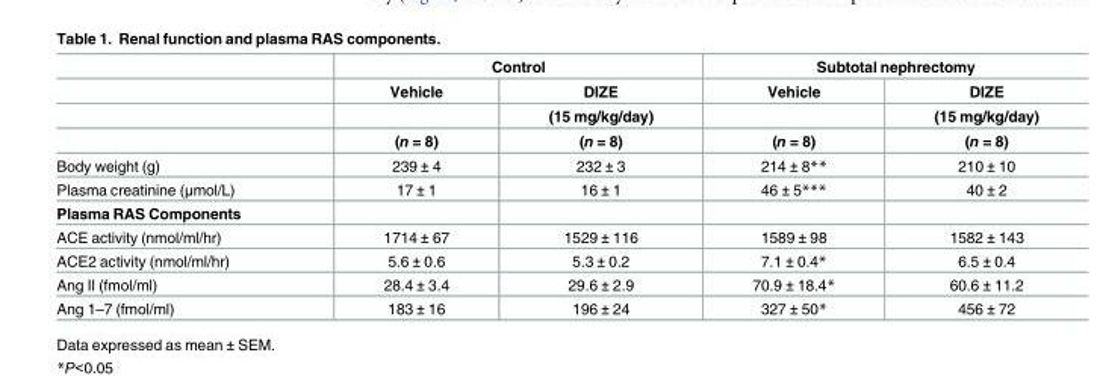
<table><thead><tr><td rowspan="4"></td><td colspan="2">Control</td><td colspan="2">Subtotal nephrectomy</td></tr><tr><td rowspan="3">Vehicle (n = 8)</td><td rowspan="3">DIZE (15 mg/kg/day) (n = 8)</td><td rowspan="3">Vehicle (n = 8)</td><td rowspan="3">DIZE (15 mg/kg/day) (n = 8)</td></tr><tr></tr><tr></tr></thead><tbody><tr><td>Body weight (g)</td><td>239 ± 4</td><td>232 ± 3</td><td>214 ± 8**</td><td>210 ± 10</td></tr><tr><td>Plasma creatinine (μmol/L)</td><td>17 ± 1</td><td>16 ± 1</td><td>46 ± 5***</td><td>40 ± 2</td></tr><tr><td colspan="5">Plasma RAS Components</td></tr><tr><td>ACE activity (nmol/ml/hr)</td><td>1714 ± 67</td><td>1529 ± 116</td><td>1589 ± 98</td><td>1582 ± 143</td></tr><tr><td>ACE2 activity (nmol/ml/hr)</td><td>5.6 ± 0.6</td><td>5.3 ± 0.2</td><td>7.1 ± 0.4*</td><td>6.5 ± 0.4</td></tr><tr><td>Ang II (fmol/ml)</td><td>28.4 ± 3.4</td><td>29.6 ± 2.9</td><td>70.9 ± 18.4*</td><td>60.6 ± 11.2</td></tr><tr><td>Ang 1–7 (fmol/ml)</td><td>183 ± 16</td><td>196 ± 24</td><td>327 ± 50*</td><td>456 ± 72</td></tr></tbody></table>